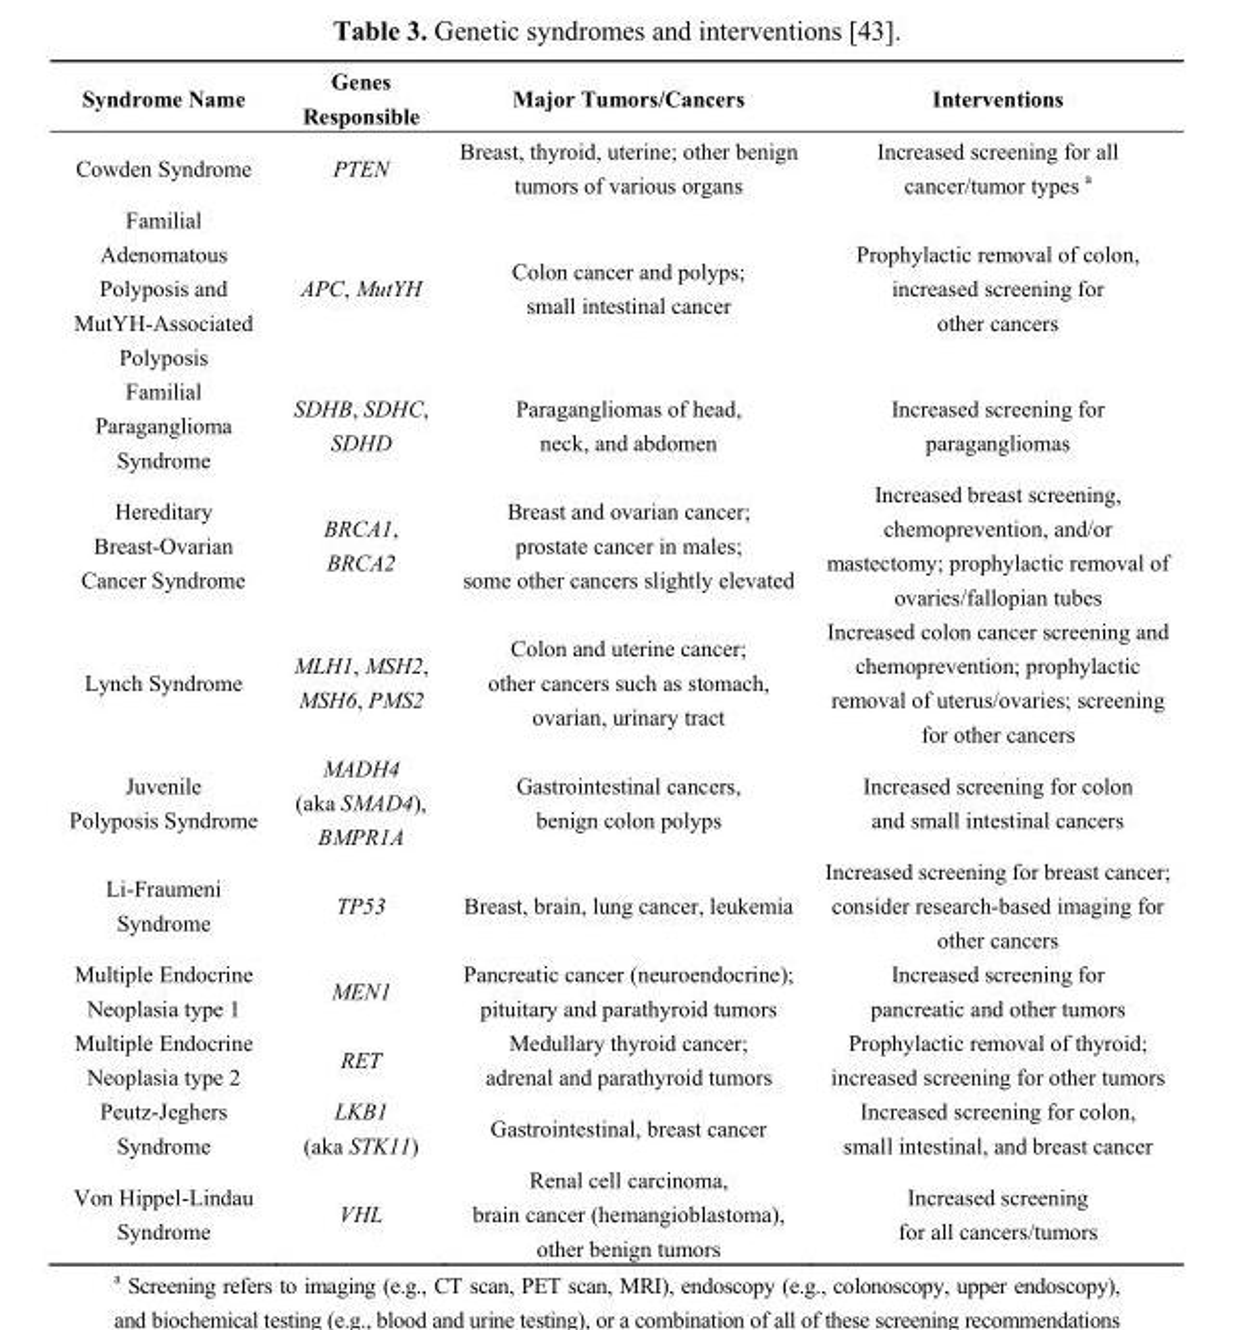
<table><thead><tr><td>Syndrome Name</td><td>Genes Responsible</td><td>Major Tumors/Cancers</td><td>Interventions</td></tr></thead><tbody><tr><td>Cowden Syndrome</td><td>PTEN</td><td>Breast, thyroid, uterine; other benign tumors of various organs</td><td>Increased screening for all cancer/tumor types <sup>a</sup></td></tr><tr><td>Familial Adenomatous Polyposis and MutYH-Associated Polyposis</td><td>APC, MutYH</td><td>Colon cancer and polyps; small intestinal cancer</td><td>Prophylactic removal of colon, increased screening for other cancers</td></tr><tr><td>Familial Paraganglioma Syndrome</td><td>SDHB, SDHC, SDHD</td><td>Paragangliomas of head, neck, and abdomen</td><td>Increased screening for paragangliomas</td></tr><tr><td>Hereditary Breast-Ovarian Cancer Syndrome</td><td>BRCA1, BRCA2</td><td>Breast and ovarian cancer; prostate cancer in males; some other cancers slightly elevated</td><td>Increased breast screening, chemoprevention, and/or mastectomy; prophylactic removal of ovaries/fallopian tubes</td></tr><tr><td>Lynch Syndrome</td><td>MLH1, MSH2, MSH6, PMS2</td><td>Colon and uterine cancer; other cancers such as stomach, ovarian, urinary tract</td><td>Increased colon cancer screening and chemoprevention; prophylactic removal of uterus/ovaries; screening for other cancers</td></tr><tr><td>Juvenile Polyposis Syndrome</td><td>MADH4 (aka SMAD4), BMPR1A</td><td>Gastrointestinal cancers, benign colon polyps</td><td>Increased screening for colon and small intestinal cancers</td></tr><tr><td>Li-Fraumeni Syndrome</td><td>TP53</td><td>Breast, brain, lung cancer, leukemia</td><td>Increased screening for breast cancer; consider research-based imaging for other cancers</td></tr><tr><td>Multiple Endocrine Neoplasia type 1</td><td>MEN1</td><td>Pancreatic cancer (neuroendocrine); pituitary and parathyroid tumors</td><td>Increased screening for pancreatic and other tumors</td></tr><tr><td>Multiple Endocrine Neoplasia type 2</td><td>RET</td><td>Medullary thyroid cancer; adrenal and parathyroid tumors</td><td>Prophylactic removal of thyroid; increased screening for other tumors</td></tr><tr><td>Peutz-Jeghers Syndrome</td><td>LKB1 (aka STK11)</td><td>Gastrointestinal, breast cancer</td><td>Increased screening for colon, small intestinal, and breast cancer</td></tr><tr><td>Von Hippel-Lindau Syndrome</td><td>VHL</td><td>Renal cell carcinoma, brain cancer (hemangioblastoma), other benign tumors</td><td>Increased screening for all cancers/tumors</td></tr></tbody></table>